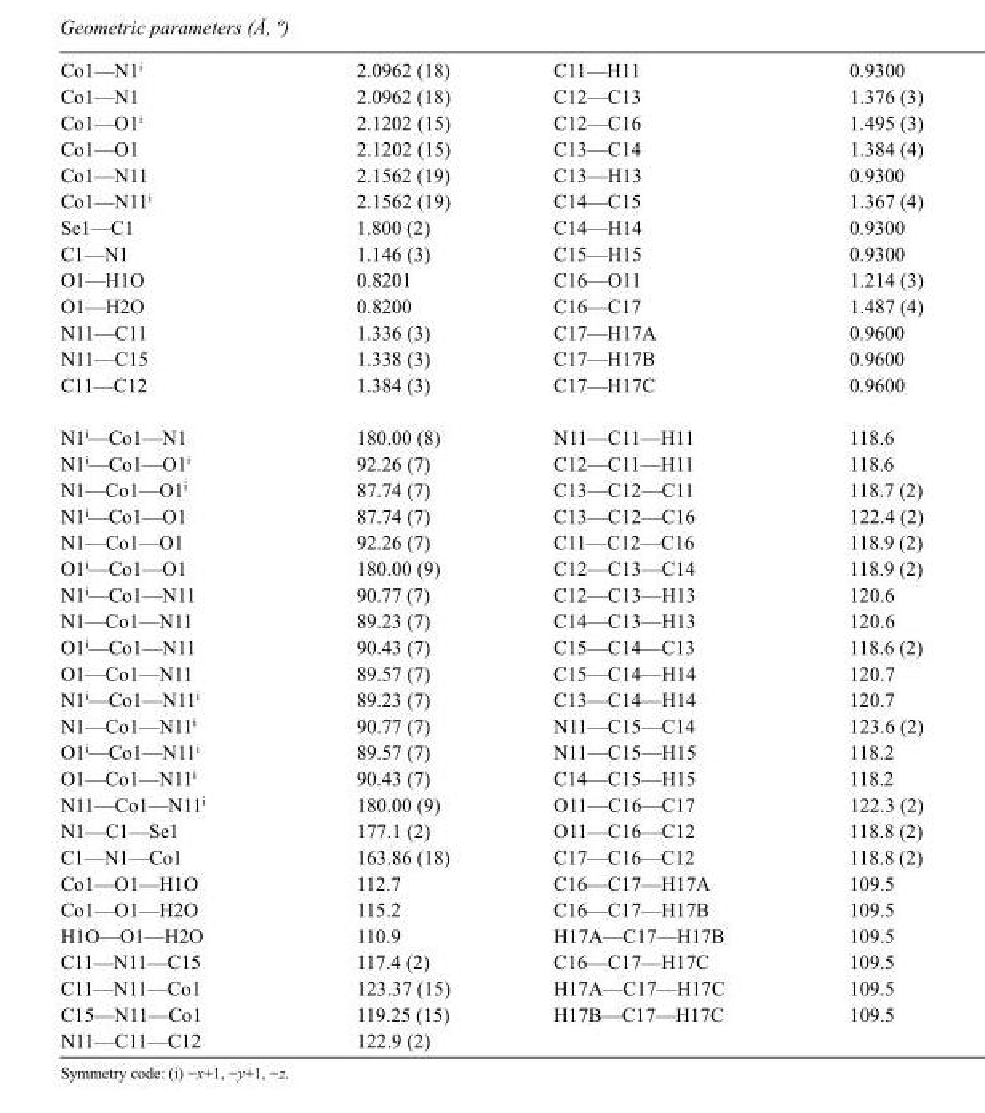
<table><tbody><tr><td>Co1—N1<sup>i</sup></td><td>2.0962 (18)</td><td>C11—H11</td><td>0.9300</td></tr><tr><td>Co1—N1</td><td>2.0962 (18)</td><td>C12—C13</td><td>1.376 (3)</td></tr><tr><td>Co1—O1<sup>i</sup></td><td>2.1202 (15)</td><td>C12—C16</td><td>1.495 (3)</td></tr><tr><td>Co1—O1</td><td>2.1202 (15)</td><td>C13—C14</td><td>1.384 (4)</td></tr><tr><td>Co1—N11</td><td>2.1562 (19)</td><td>C13—H13</td><td>0.9300</td></tr><tr><td>Co1—N11<sup>i</sup></td><td>2.1562 (19)</td><td>C14—C15</td><td>1.367 (4)</td></tr><tr><td>Se1—C1</td><td>1.800 (2)</td><td>C14—H14</td><td>0.9300</td></tr><tr><td>C1—N1</td><td>1.146 (3)</td><td>C15—H15</td><td>0.9300</td></tr><tr><td>O1—H1O</td><td>0.8201</td><td>C16—O11</td><td>1.214 (3)</td></tr><tr><td>O1—H2O</td><td>0.8200</td><td>C16—C17</td><td>1.487 (4)</td></tr><tr><td>N11—C11</td><td>1.336 (3)</td><td>C17—H17A</td><td>0.9600</td></tr><tr><td>N11—C15</td><td>1.338 (3)</td><td>C17—H17B</td><td>0.9600</td></tr><tr><td>C11—C12</td><td>1.384 (3)</td><td>C17—H17C</td><td>0.9600</td></tr><tr><td>N1<sup>i</sup>—Co1—N1</td><td>180.00 (8)</td><td>N11—C11—H11</td><td>118.6</td></tr><tr><td>N1<sup>i</sup>—Co1—O1<sup>i</sup></td><td>92.26 (7)</td><td>C12—C11—H11</td><td>118.6</td></tr><tr><td>N1—Co1—O1<sup>i</sup></td><td>87.74 (7)</td><td>C13—C12—C11</td><td>118.7 (2)</td></tr><tr><td>N1<sup>i</sup>—Co1—O1</td><td>87.74 (7)</td><td>C13—C12—C16</td><td>122.4 (2)</td></tr><tr><td>N1—Co1—O1</td><td>92.26 (7)</td><td>C11—C12—C16</td><td>118.9 (2)</td></tr><tr><td>O1<sup>i</sup>—Co1—O1</td><td>180.00 (9)</td><td>C12—C13—C14</td><td>118.9 (2)</td></tr><tr><td>N1<sup>i</sup>—Co1—N11</td><td>90.77 (7)</td><td>C12—C13—H13</td><td>120.6</td></tr><tr><td>N1—Co1—N11</td><td>89.23 (7)</td><td>C14—C13—H13</td><td>120.6</td></tr><tr><td>O1<sup>i</sup>—Co1—N11</td><td>90.43 (7)</td><td>C15—C14—C13</td><td>118.6 (2)</td></tr><tr><td>O1—Co1—N11</td><td>89.57 (7)</td><td>C15—C14—H14</td><td>120.7</td></tr><tr><td>N1<sup>i</sup>—Co1—N11<sup>i</sup></td><td>89.23 (7)</td><td>C13—C14—H14</td><td>120.7</td></tr><tr><td>N1—Co1—N11<sup>i</sup></td><td>90.77 (7)</td><td>N11—C15—C14</td><td>123.6 (2)</td></tr><tr><td>O1<sup>i</sup>—Co1—N11<sup>i</sup></td><td>89.57 (7)</td><td>N11—C15—H15</td><td>118.2</td></tr><tr><td>O1—Co1—N11<sup>i</sup></td><td>90.43 (7)</td><td>C14—C15—H15</td><td>118.2</td></tr><tr><td>N11—Co1—N11<sup>i</sup></td><td>180.00 (9)</td><td>O11—C16—C17</td><td>122.3 (2)</td></tr><tr><td>N1—C1—Se1</td><td>177.1 (2)</td><td>O11—C16—C12</td><td>118.8 (2)</td></tr><tr><td>C1—N1—Co1</td><td>163.86 (18)</td><td>C17—C16—C12</td><td>118.8 (2)</td></tr><tr><td>Co1—O1—H1O</td><td>112.7</td><td>C16—C17—H17A</td><td>109.5</td></tr><tr><td>Co1—O1—H2O</td><td>115.2</td><td>C16—C17—H17B</td><td>109.5</td></tr><tr><td>H1O—O1—H2O</td><td>110.9</td><td>H17A—C17—H17B</td><td>109.5</td></tr><tr><td>C11—N11—C15</td><td>117.4 (2)</td><td>C16—C17—H17C</td><td>109.5</td></tr><tr><td>C11—N11—Co1</td><td>123.37 (15)</td><td>H17A—C17—H17C</td><td>109.5</td></tr><tr><td>C15—N11—Co1</td><td>119.25 (15)</td><td>H17B—C17—H17C</td><td>109.5</td></tr><tr><td>N11—C11—C12</td><td>122.9 (2)</td><td></td><td></td></tr></tbody></table>